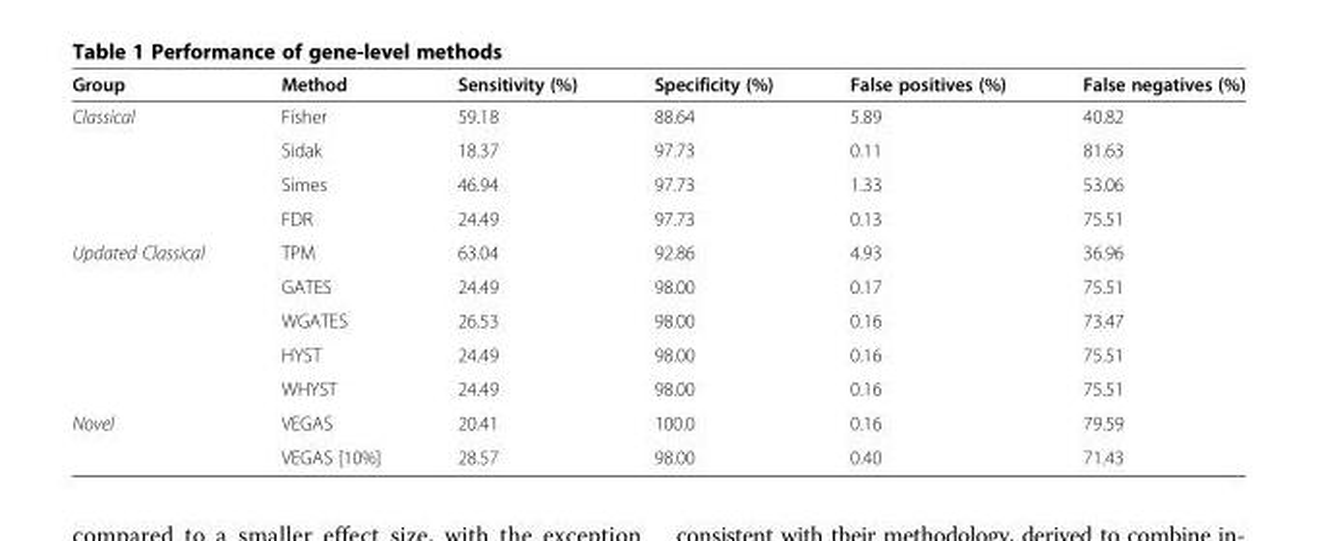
<table><thead><tr><td>Group</td><td>Method</td><td>Sensitivity (%)</td><td>Specificity (%)</td><td>False positives (%)</td><td>False negatives (%)</td></tr></thead><tbody><tr><td rowspan="4">Classical</td><td>Fisher</td><td>59.18</td><td>88.64</td><td>5.89</td><td>40.82</td></tr><tr><td>Sidak</td><td>18.37</td><td>97.73</td><td>0.11</td><td>81.63</td></tr><tr><td>Simes</td><td>46.94</td><td>97.73</td><td>1.33</td><td>53.06</td></tr><tr><td>FDR</td><td>24.49</td><td>97.73</td><td>0.13</td><td>75.51</td></tr><tr><td rowspan="5">Updated Classical</td><td>TPM</td><td>63.04</td><td>92.86</td><td>4.93</td><td>36.96</td></tr><tr><td>GATES</td><td>24.49</td><td>98.00</td><td>0.17</td><td>75.51</td></tr><tr><td>WGATES</td><td>26.53</td><td>98.00</td><td>0.16</td><td>73.47</td></tr><tr><td>HYST</td><td>24.49</td><td>98.00</td><td>0.16</td><td>75.51</td></tr><tr><td>WHYST</td><td>24.49</td><td>98.00</td><td>0.16</td><td>75.51</td></tr><tr><td rowspan="2">Novel</td><td>VEGAS</td><td>20.41</td><td>100.0</td><td>0.16</td><td>79.59</td></tr><tr><td>VEGAS [10%]</td><td>28.57</td><td>98.00</td><td>0.40</td><td>71.43</td></tr></tbody></table>